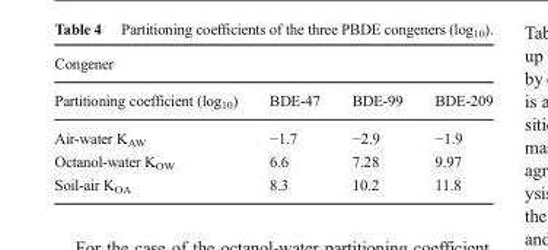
<table><thead><tr><td colspan="4">Congener</td></tr><tr><td>Partitioning coefficient (log<sub>10</sub>)</td><td>BDE-47</td><td>BDE-99</td><td>BDE-209</td></tr></thead><tbody><tr><td>Air-water K<sub>AW</sub></td><td>−1.7</td><td>−2.9</td><td>−1.9</td></tr><tr><td>Octanol-water K<sub>OW</sub></td><td>6.6</td><td>7.28</td><td>9.97</td></tr><tr><td>Soil-air K<sub>OA</sub></td><td>8.3</td><td>10.2</td><td>11.8</td></tr></tbody></table>